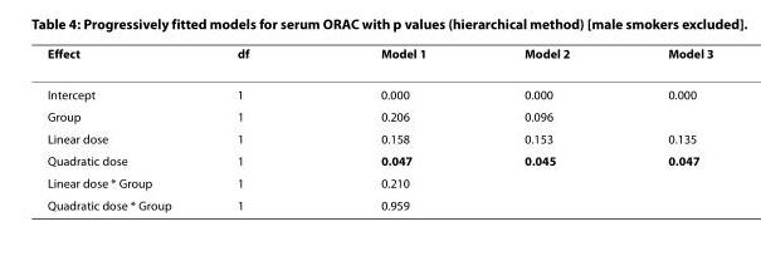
<table><thead><tr><td>Effect</td><td>df</td><td>Model 1</td><td>Model 2</td><td>Model 3</td></tr></thead><tbody><tr><td>Intercept</td><td>1</td><td>0.000</td><td>0.000</td><td>0.000</td></tr><tr><td>Group</td><td>1</td><td>0.206</td><td>0.096</td><td></td></tr><tr><td>Linear dose</td><td>1</td><td>0.158</td><td>0.153</td><td>0.135</td></tr><tr><td>Quadratic dose</td><td>1</td><td>0.047</td><td>0.045</td><td>0.047</td></tr><tr><td>Linear dose * Group</td><td>1</td><td>0.210</td><td></td><td></td></tr><tr><td>Quadratic dose * Group</td><td>1</td><td>0.959</td><td></td><td></td></tr></tbody></table>